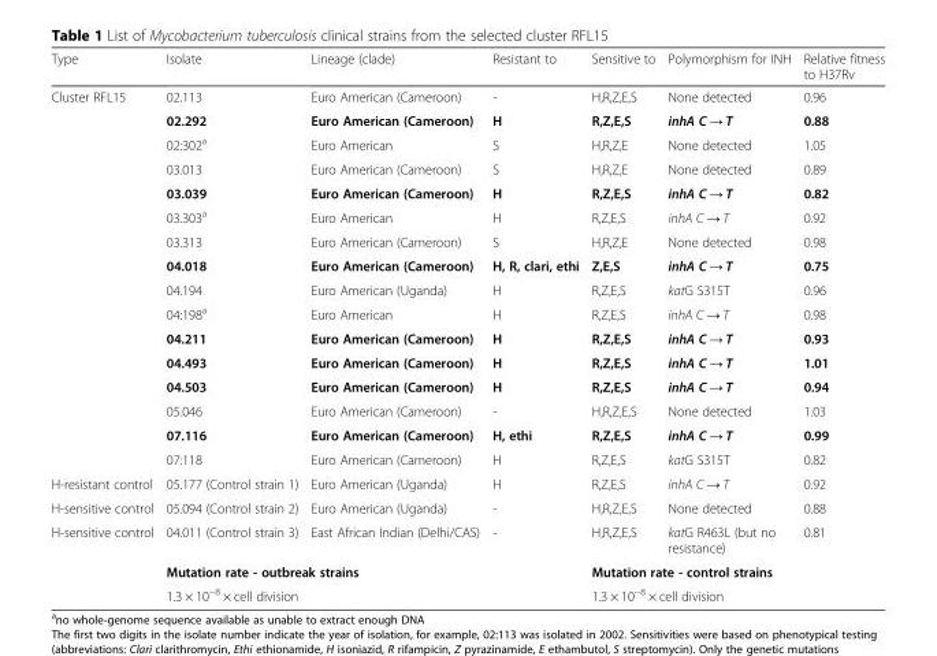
<table><thead><tr><td>Type</td><td>Isolate</td><td>Lineage (clade)</td><td>Resistant to</td><td>Sensitive to</td><td>Polymorphism for INH</td><td>Relative fitness to H37Rv</td></tr></thead><tbody><tr><td rowspan="16">Cluster RFL15</td><td>02.113</td><td>Euro American (Cameroon)</td><td>-</td><td>H,R,Z,E,S</td><td>None detected</td><td>0.96</td></tr><tr><td>02.292</td><td>Euro American (Cameroon)</td><td>H</td><td>R,Z,E,S</td><td>inhA C → T</td><td>0.88</td></tr><tr><td>02:302<sup>a</sup></td><td>Euro American</td><td>S</td><td>H,R,Z,E</td><td>None detected</td><td>1.05</td></tr><tr><td>03.013</td><td>Euro American (Cameroon)</td><td>S</td><td>H,R,Z,E</td><td>None detected</td><td>0.89</td></tr><tr><td>03.039</td><td>Euro American (Cameroon)</td><td>H</td><td>R,Z,E,S</td><td>inhA C → T</td><td>0.82</td></tr><tr><td>03.303<sup>a</sup></td><td>Euro American</td><td>H</td><td>R,Z,E,S</td><td>inhA C → T</td><td>0.92</td></tr><tr><td>03.313</td><td>Euro American (Cameroon)</td><td>S</td><td>H,R,Z,E</td><td>None detected</td><td>0.98</td></tr><tr><td>04.018</td><td>Euro American (Cameroon)</td><td>H, R, clari, ethi</td><td>Z,E,S</td><td>inhA C → T</td><td>0.75</td></tr><tr><td>04.194</td><td>Euro American (Uganda)</td><td>H</td><td>R,Z,E,S</td><td>katG S315T</td><td>0.96</td></tr><tr><td>04:198<sup>a</sup></td><td>Euro American</td><td>H</td><td>R,Z,E,S</td><td>inhA C → T</td><td>0.98</td></tr><tr><td>04.211</td><td>Euro American (Cameroon)</td><td>H</td><td>R,Z,E,S</td><td>inhA C → T</td><td>0.93</td></tr><tr><td>04.493</td><td>Euro American (Cameroon)</td><td>H</td><td>R,Z,E,S</td><td>inhA C → T</td><td>1.01</td></tr><tr><td>04.503</td><td>Euro American (Cameroon)</td><td>H</td><td>R,Z,E,S</td><td>inhA C → T</td><td>0.94</td></tr><tr><td>05.046</td><td>Euro American (Cameroon)</td><td>-</td><td>H,R,Z,E,S</td><td>None detected</td><td>1.03</td></tr><tr><td>07.116</td><td>Euro American (Cameroon)</td><td>H, ethi</td><td>R,Z,E,S</td><td>inhA C → T</td><td>0.99</td></tr><tr><td>07:118</td><td>Euro American (Cameroon)</td><td>H</td><td>R,Z,E,S</td><td>katG S315T</td><td>0.82</td></tr><tr><td>H-resistant control</td><td>05.177 (Control strain 1)</td><td>Euro American (Uganda)</td><td>H</td><td>R,Z,E,S</td><td>inhA C → T</td><td>0.92</td></tr><tr><td>H-sensitive control</td><td>05.094 (Control strain 2)</td><td>Euro American (Uganda)</td><td>-</td><td>H,R,Z,E,S</td><td>None detected</td><td>0.88</td></tr><tr><td rowspan="3">H-sensitive control</td><td>04.011 (Control strain 3)</td><td>East African Indian (Delhi/CAS)</td><td>-</td><td>H,R,Z,E,S</td><td>katG R463L (but no resistance)</td><td>0.81</td></tr><tr><td colspan="3">Mutation rate - outbreak strains</td><td colspan="3">Mutation rate - control strains</td></tr><tr><td colspan="3">1.3 × 10<sup>−8</sup> × cell division</td><td colspan="3">1.3 × 10<sup>−8</sup> × cell division</td></tr></tbody></table>